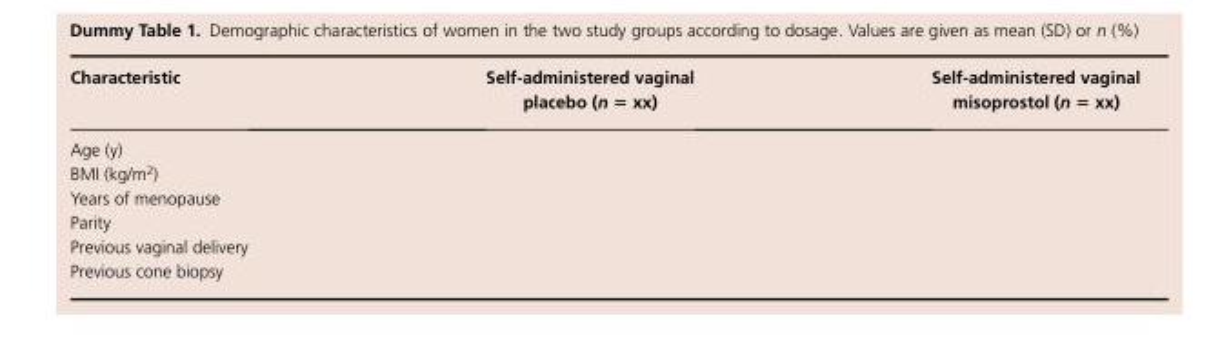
<table><thead><tr><td>Characteristic</td><td>Self-administered vaginal placebo (n = xx)</td><td>Self-administered vaginal misoprostol (n = xx)</td></tr></thead><tbody><tr><td colspan="3">Age (y)</td></tr><tr><td colspan="3">BMI (kg/m<sup>2</sup>)</td></tr><tr><td colspan="3">Years of menopause</td></tr><tr><td colspan="3">Parity</td></tr><tr><td colspan="3">Previous vaginal delivery</td></tr><tr><td>Previous cone biopsy</td><td></td><td></td></tr></tbody></table>